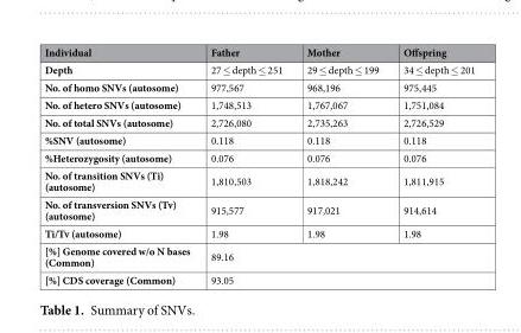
<table><thead><tr><td>Individual</td><td>Father</td><td>Mother</td><td>Offspring</td></tr></thead><tbody><tr><td>Depth</td><td>27 ≤ depth ≤ 251</td><td>29 ≤ depth ≤ 199</td><td>34 ≤ depth ≤ 201</td></tr><tr><td>No. of homo SNVs (autosome)</td><td>977,567</td><td>968,196</td><td>975,445</td></tr><tr><td>No. of hetero SNVs (autosome)</td><td>1,748,513</td><td>1,767,067</td><td>1,751,084</td></tr><tr><td>No. of total SNVs (autosome)</td><td>2,726,080</td><td>2,735,263</td><td>2,726,529</td></tr><tr><td>%SNV (autosome)</td><td>0.118</td><td>0.118</td><td>0.118</td></tr><tr><td>%Heterozygosity (autosome)</td><td>0.076</td><td>0.076</td><td>0.076</td></tr><tr><td>No. of transition SNVs (Ti) (autosome)</td><td>1,810,503</td><td>1,818,242</td><td>1,811,915</td></tr><tr><td>No. of transversion SNVs (Tv) (autosome)</td><td>915,577</td><td>917,021</td><td>914,614</td></tr><tr><td>Ti/Tv (autosome)</td><td>1.98</td><td>1.98</td><td>1.98</td></tr><tr><td>[%] Genome covered w/o N bases (Common)</td><td colspan="3">89.16</td></tr><tr><td>[%] CDS coverage (Common)</td><td colspan="3">93.05</td></tr></tbody></table>